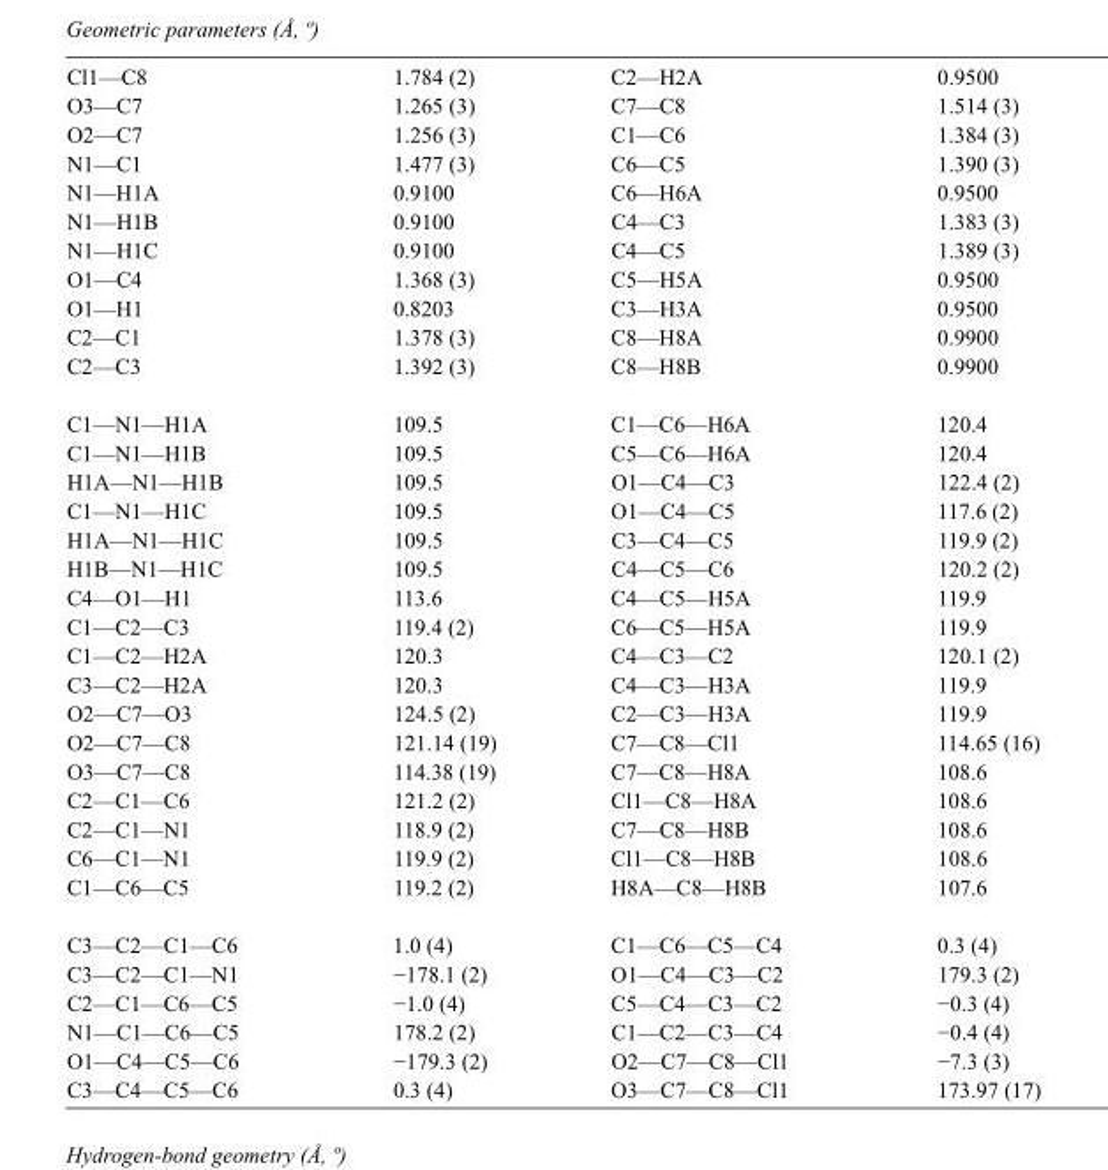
<table><tbody><tr><td>Cl1—C8</td><td>1.784 (2)</td><td>C2—H2A</td><td>0.9500</td></tr><tr><td>O3—C7</td><td>1.265 (3)</td><td>C7—C8</td><td>1.514 (3)</td></tr><tr><td>O2—C7</td><td>1.256 (3)</td><td>C1—C6</td><td>1.384 (3)</td></tr><tr><td>N1—C1</td><td>1.477 (3)</td><td>C6—C5</td><td>1.390 (3)</td></tr><tr><td>N1—H1A</td><td>0.9100</td><td>C6—H6A</td><td>0.9500</td></tr><tr><td>N1—H1B</td><td>0.9100</td><td>C4—C3</td><td>1.383 (3)</td></tr><tr><td>N1—H1C</td><td>0.9100</td><td>C4—C5</td><td>1.389 (3)</td></tr><tr><td>O1—C4</td><td>1.368 (3)</td><td>C5—H5A</td><td>0.9500</td></tr><tr><td>O1—H1</td><td>0.8203</td><td>C3—H3A</td><td>0.9500</td></tr><tr><td>C2—C1</td><td>1.378 (3)</td><td>C8—H8A</td><td>0.9900</td></tr><tr><td>C2—C3</td><td>1.392 (3)</td><td>C8—H8B</td><td>0.9900</td></tr><tr><td>C1—N1—H1A</td><td>109.5</td><td>C1—C6—H6A</td><td>120.4</td></tr><tr><td>C1—N1—H1B</td><td>109.5</td><td>C5—C6—H6A</td><td>120.4</td></tr><tr><td>H1A—N1—H1B</td><td>109.5</td><td>O1—C4—C3</td><td>122.4 (2)</td></tr><tr><td>C1—N1—H1C</td><td>109.5</td><td>O1—C4—C5</td><td>117.6 (2)</td></tr><tr><td>H1A—N1—H1C</td><td>109.5</td><td>C3—C4—C5</td><td>119.9 (2)</td></tr><tr><td>H1B—N1—H1C</td><td>109.5</td><td>C4—C5—C6</td><td>120.2 (2)</td></tr><tr><td>C4—O1—H1</td><td>113.6</td><td>C4—C5—H5A</td><td>119.9</td></tr><tr><td>C1—C2—C3</td><td>119.4 (2)</td><td>C6—C5—H5A</td><td>119.9</td></tr><tr><td>C1—C2—H2A</td><td>120.3</td><td>C4—C3—C2</td><td>120.1 (2)</td></tr><tr><td>C3—C2—H2A</td><td>120.3</td><td>C4—C3—H3A</td><td>119.9</td></tr><tr><td>O2—C7—O3</td><td>124.5 (2)</td><td>C2—C3—H3A</td><td>119.9</td></tr><tr><td>O2—C7—C8</td><td>121.14 (19)</td><td>C7—C8—Cl1</td><td>114.65 (16)</td></tr><tr><td>O3—C7—C8</td><td>114.38 (19)</td><td>C7—C8—H8A</td><td>108.6</td></tr><tr><td>C2—C1—C6</td><td>121.2 (2)</td><td>Cl1—C8—H8A</td><td>108.6</td></tr><tr><td>C2—C1—N1</td><td>118.9 (2)</td><td>C7—C8—H8B</td><td>108.6</td></tr><tr><td>C6—C1—N1</td><td>119.9 (2)</td><td>Cl1—C8—H8B</td><td>108.6</td></tr><tr><td>C1—C6—C5</td><td>119.2 (2)</td><td>H8A—C8—H8B</td><td>107.6</td></tr><tr><td>C3—C2—C1—C6</td><td>1.0 (4)</td><td>C1—C6—C5—C4</td><td>0.3 (4)</td></tr><tr><td>C3—C2—C1—N1</td><td>−178.1 (2)</td><td>O1—C4—C3—C2</td><td>179.3 (2)</td></tr><tr><td>C2—C1—C6—C5</td><td>−1.0 (4)</td><td>C5—C4—C3—C2</td><td>−0.3 (4)</td></tr><tr><td>N1—C1—C6—C5</td><td>178.2 (2)</td><td>C1—C2—C3—C4</td><td>−0.4 (4)</td></tr><tr><td>O1—C4—C5—C6</td><td>−179.3 (2)</td><td>O2—C7—C8—Cl1</td><td>−7.3 (3)</td></tr><tr><td>C3—C4—C5—C6</td><td>0.3 (4)</td><td>O3—C7—C8—Cl1</td><td>173.97 (17)</td></tr></tbody></table>